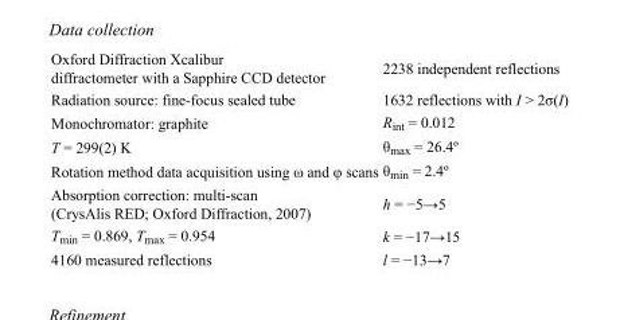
<table><tbody><tr><td>Oxford Diffraction Xcalibur diffractometer with a Sapphire CCD detector</td><td>2238 independent reflections</td></tr><tr><td>Radiation source: fine-focus sealed tube</td><td>1632 reflections with I &gt; 2σ(I)</td></tr><tr><td>Monochromator: graphite</td><td>R<sub>int</sub> = 0.012</td></tr><tr><td>T = 299(2) K</td><td>θ<sub>max</sub> = 26.4º</td></tr><tr><td>Rotation method data acquisition using ω and φ scans</td><td>θ<sub>min</sub> = 2.4º</td></tr><tr><td>Absorption correction: multi-scan (CrysAlis RED; Oxford Diffraction, 2007)</td><td>h = −5→5</td></tr><tr><td>T<sub>min</sub> = 0.869, T<sub>max</sub> = 0.954</td><td>k = −17→15</td></tr><tr><td>4160 measured reflections</td><td>l = −13→7</td></tr></tbody></table>